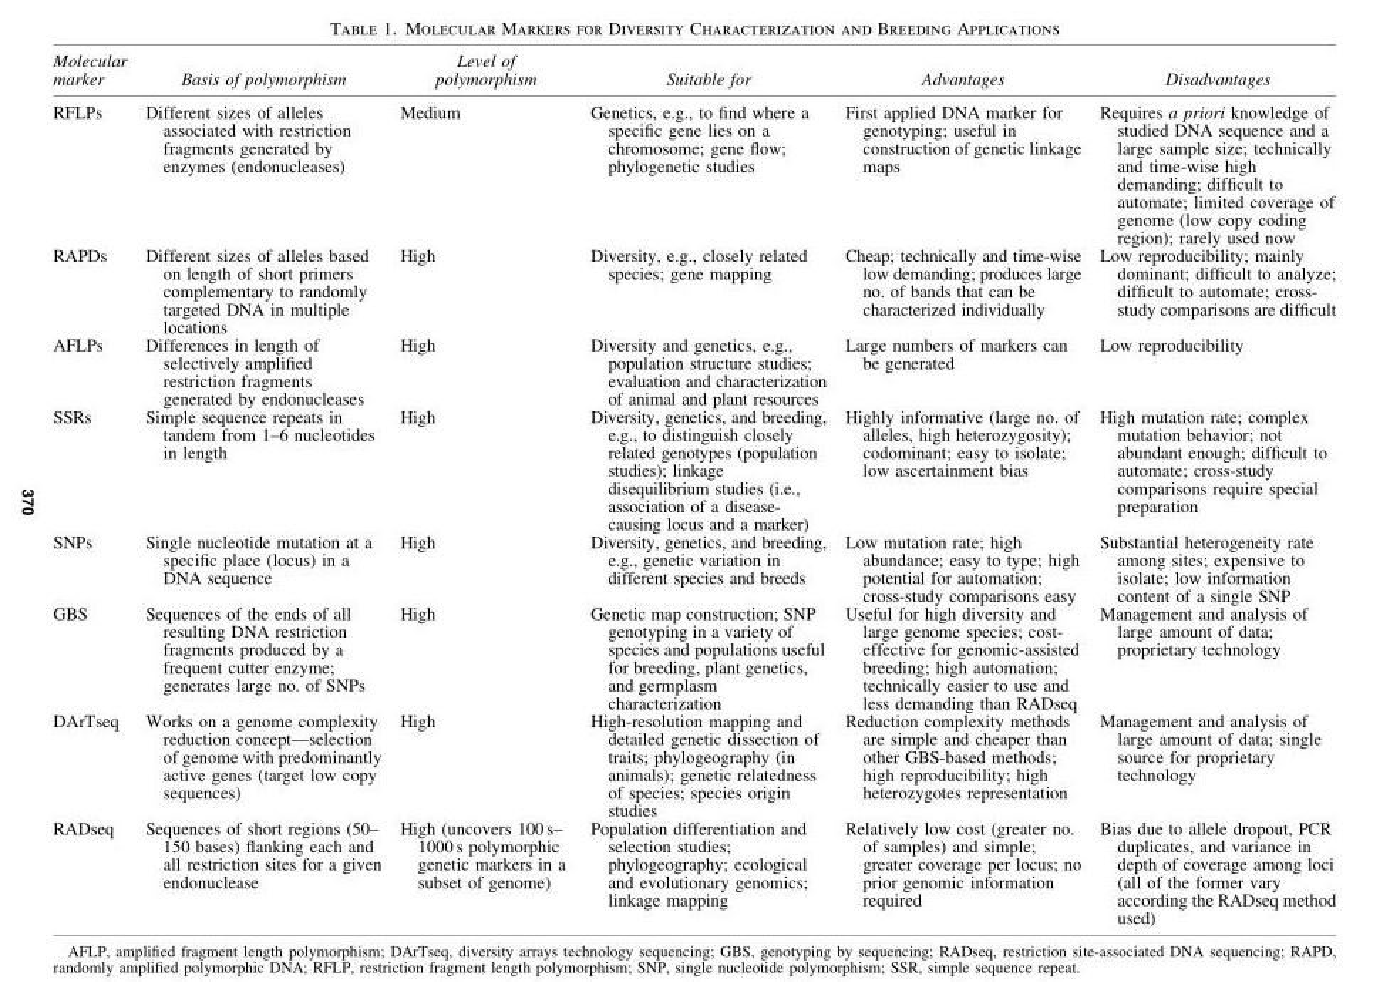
<table><thead><tr><td>Molecular marker</td><td>Basis of polymorphism</td><td>Level of polymorphism</td><td>Suitable for</td><td>Advantages</td><td>Disadvantages</td></tr></thead><tbody><tr><td>RFLPs</td><td>Different sizes of alleles associated with restriction fragments generated by enzymes (endonucleases)</td><td>Medium</td><td>Genetics, e.g., to find where a specific gene lies on a chromosome; gene flow; phylogenetic studies</td><td>First applied DNA marker for genotyping; useful in construction of genetic linkage maps</td><td>Requires a priori knowledge of studied DNA sequence and a large sample size; technically and time-wise high demanding; difficult to automate; limited coverage of genome (low copy coding region); rarely used now</td></tr><tr><td>RAPDs</td><td>Different sizes of alleles based on length of short primers complementary to randomly targeted DNA in multiple locations</td><td>High</td><td>Diversity, e.g., closely related species; gene mapping</td><td>Cheap; technically and time-wise low demanding; produces large no. of bands that can be characterized individually</td><td>Low reproducibility; mainly dominant; difficult to analyze; difficult to automate; cross- study comparisons are difficult</td></tr><tr><td>AFLPs</td><td>Differences in length of selectively amplified restriction fragments generated by endonucleases</td><td>High</td><td>Diversity and genetics, e.g., population structure studies; evaluation and characterization of animal and plant resources</td><td>Large numbers of markers can be generated</td><td>Low reproducibility</td></tr><tr><td>SSRs</td><td>Simple sequence repeats in tandem from 1–6 nucleotides in length</td><td>High</td><td>Diversity, genetics, and breeding, e.g., to distinguish closely related genotypes (population studies); linkage disequilibrium studies (i.e., association of a disease- causing locus and a marker)</td><td>Highly informative (large no. of alleles, high heterozygosity); codominant; easy to isolate; low ascertainment bias</td><td>High mutation rate; complex mutation behavior; not abundant enough; difficult to automate; cross-study comparisons require special preparation</td></tr><tr><td>SNPs</td><td>Single nucleotide mutation at a specific place (locus) in a DNA sequence</td><td>High</td><td>Diversity, genetics, and breeding, e.g., genetic variation in different species and breeds</td><td>Low mutation rate; high abundance; easy to type; high potential for automation; cross-study comparisons easy</td><td>Substantial heterogeneity rate among sites; expensive to isolate; low information content of a single SNP</td></tr><tr><td>GBS</td><td>Sequences of the ends of all resulting DNA restriction fragments produced by a frequent cutter enzyme; generates large no. of SNPs</td><td>High</td><td>Genetic map construction; SNP genotyping in a variety of species and populations useful for breeding, plant genetics, and germplasm characterization</td><td>Useful for high diversity and large genome species; cost- effective for genomic-assisted breeding; high automation; technically easier to use and less demanding than RADseq</td><td>Management and analysis of large amount of data; proprietary technology</td></tr><tr><td>DArTseq</td><td>Works on a genome complexity reduction concept—selection of genome with predominantly active genes (target low copy sequences)</td><td>High</td><td>High-resolution mapping and detailed genetic dissection of traits; phylogeography (in animals); genetic relatedness of species; species origin studies</td><td>Reduction complexity methods are simple and cheaper than other GBS-based methods; high reproducibility; high heterozygotes representation</td><td>Management and analysis of large amount of data; single source for proprietary technology</td></tr><tr><td>RADseq</td><td>Sequences of short regions (50– 150 bases) flanking each and all restriction sites for a given endonuclease</td><td>High (uncovers 100 s– 1000 s polymorphic genetic markers in a subset of genome)</td><td>Population differentiation and selection studies; phylogeography; ecological and evolutionary genomics; linkage mapping</td><td>Relatively low cost (greater no. of samples) and simple; greater coverage per locus; no prior genomic information required</td><td>Bias due to allele dropout, PCR duplicates, and variance in depth of coverage among loci (all of the former vary according the RADseq method used)</td></tr></tbody></table>